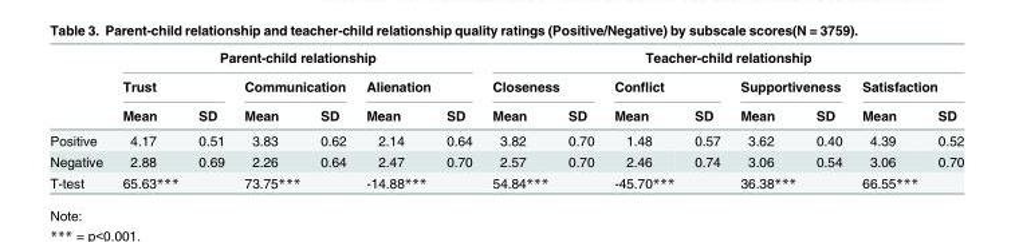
<table><thead><tr><td rowspan="3"></td><td colspan="6">Parent-child relationship</td><td colspan="8">Teacher-child relationship</td></tr><tr><td colspan="2">Trust</td><td colspan="2">Communication</td><td colspan="2">Alienation</td><td colspan="2">Closeness</td><td colspan="2">Conflict</td><td colspan="2">Supportiveness</td><td colspan="2">Satisfaction</td></tr><tr><td>Mean</td><td>SD</td><td>Mean</td><td>SD</td><td>Mean</td><td>SD</td><td>Mean</td><td>SD</td><td>Mean</td><td>SD</td><td>Mean</td><td>SD</td><td>Mean</td><td>SD</td></tr></thead><tbody><tr><td>Positive</td><td>4.17</td><td>0.51</td><td>3.83</td><td>0.62</td><td>2.14</td><td>0.64</td><td>3.82</td><td>0.70</td><td>1.48</td><td>0.57</td><td>3.62</td><td>0.40</td><td>4.39</td><td>0.52</td></tr><tr><td>Negative</td><td>2.88</td><td>0.69</td><td>2.26</td><td>0.64</td><td>2.47</td><td>0.70</td><td>2.57</td><td>0.70</td><td>2.46</td><td>0.74</td><td>3.06</td><td>0.54</td><td>3.06</td><td>0.70</td></tr><tr><td>T-test</td><td>65.63***</td><td></td><td>73.75***</td><td></td><td>-14.88***</td><td></td><td>54.84***</td><td></td><td>-45.70***</td><td></td><td>36.38***</td><td></td><td>66.55***</td><td></td></tr></tbody></table>